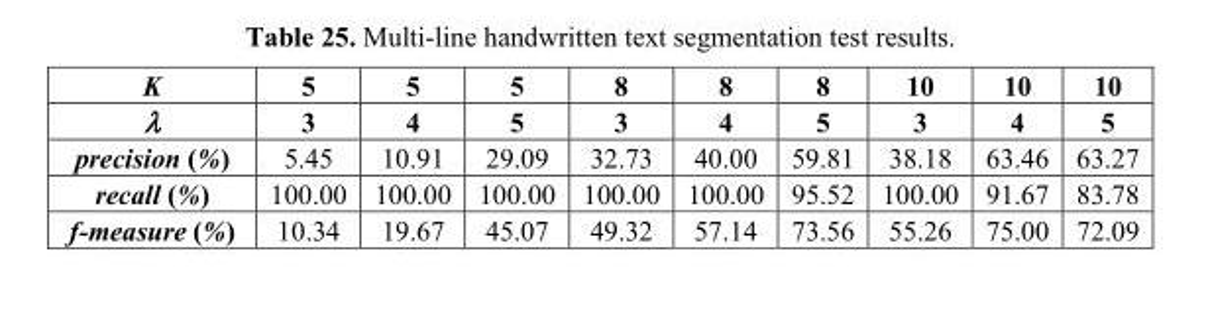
<table><thead><tr><td rowspan="2">K λ</td><td rowspan="2">5 3</td><td rowspan="2">5 4</td><td rowspan="2">5 5</td><td rowspan="2">8 3</td><td rowspan="2">8 4</td><td rowspan="2">8 5</td><td rowspan="2">10 3</td><td rowspan="2">10 4</td><td rowspan="2">10 5</td></tr><tr></tr></thead><tbody><tr><td>precision (%)</td><td>5.45</td><td>10.91</td><td>29.09</td><td>32.73</td><td>40.00</td><td>59.81</td><td>38.18</td><td>63.46</td><td>63.27</td></tr><tr><td>recall (%)</td><td>100.00</td><td>100.00</td><td>100.00</td><td>100.00</td><td>100.00</td><td>95.52</td><td>100.00</td><td>91.67</td><td>83.78</td></tr><tr><td>f-measure (%)</td><td>10.34</td><td>19.67</td><td>45.07</td><td>49.32</td><td>57.14</td><td>73.56</td><td>55.26</td><td>75.00</td><td>72.09</td></tr></tbody></table>